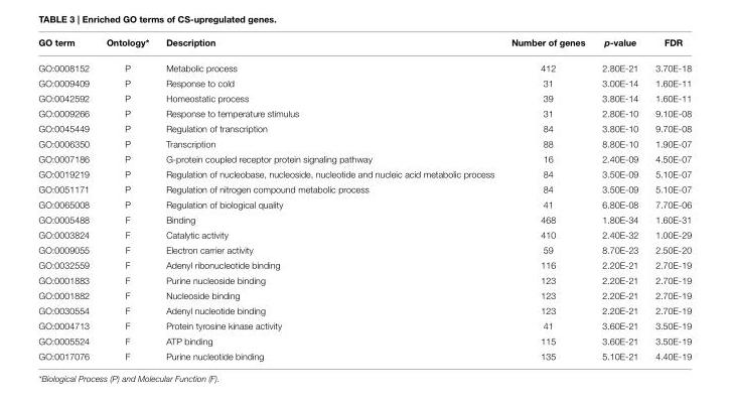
<table><thead><tr><td>GO term</td><td>Ontology*</td><td>Description</td><td>Number of genes</td><td>p-value</td><td>FDR</td></tr></thead><tbody><tr><td>GO:0008152</td><td>P</td><td>Metabolic process</td><td>412</td><td>2.80E-21</td><td>3.70E-18</td></tr><tr><td>GO:0009409</td><td>P</td><td>Response to cold</td><td>31</td><td>3.00E-14</td><td>1.60E-11</td></tr><tr><td>GO:0042592</td><td>P</td><td>Homeostatic process</td><td>39</td><td>3.80E-14</td><td>1.60E-11</td></tr><tr><td>GO:0009266</td><td>P</td><td>Response to temperature stimulus</td><td>31</td><td>2.80E-10</td><td>9.10E-08</td></tr><tr><td>GO:0045449</td><td>P</td><td>Regulation of transcription</td><td>84</td><td>3.80E-10</td><td>9.70E-08</td></tr><tr><td>GO:0006350</td><td>P</td><td>Transcription</td><td>88</td><td>8.80E-10</td><td>1.90E-07</td></tr><tr><td>GO:0007186</td><td>P</td><td>G-protein coupled receptor protein signaling pathway</td><td>16</td><td>2.40E-09</td><td>4.50E-07</td></tr><tr><td>GO:0019219</td><td>P</td><td>Regulation of nucleobase, nucleoside, nucleotide and nucleic acid metabolic process</td><td>84</td><td>3.50E-09</td><td>5.10E-07</td></tr><tr><td>GO:0051171</td><td>P</td><td>Regulation of nitrogen compound metabolic process</td><td>84</td><td>3.50E-09</td><td>5.10E-07</td></tr><tr><td>GO:0065008</td><td>P</td><td>Regulation of biological quality</td><td>41</td><td>6.80E-08</td><td>7.70E-06</td></tr><tr><td>GO:0005488</td><td>F</td><td>Binding</td><td>468</td><td>1.80E-34</td><td>1.60E-31</td></tr><tr><td>GO:0003824</td><td>F</td><td>Catalytic activity</td><td>410</td><td>2.40E-32</td><td>1.00E-29</td></tr><tr><td>GO:0009055</td><td>F</td><td>Electron carrier activity</td><td>59</td><td>8.70E-23</td><td>2.50E-20</td></tr><tr><td>GO:0032559</td><td>F</td><td>Adenyl ribonucleotide binding</td><td>116</td><td>2.20E-21</td><td>2.70E-19</td></tr><tr><td>GO:0001883</td><td>F</td><td>Purine nucleoside binding</td><td>123</td><td>2.20E-21</td><td>2.70E-19</td></tr><tr><td>GO:0001882</td><td>F</td><td>Nucleoside binding</td><td>123</td><td>2.20E-21</td><td>2.70E-19</td></tr><tr><td>GO:0030554</td><td>F</td><td>Adenyl nucleotide binding</td><td>123</td><td>2.20E-21</td><td>2.70E-19</td></tr><tr><td>GO:0004713</td><td>F</td><td>Protein tyrosine kinase activity</td><td>41</td><td>3.60E-21</td><td>3.50E-19</td></tr><tr><td>GO:0005524</td><td>F</td><td>ATP binding</td><td>115</td><td>3.60E-21</td><td>3.50E-19</td></tr><tr><td>GO:0017076</td><td>F</td><td>Purine nucleotide binding</td><td>135</td><td>5.10E-21</td><td>4.40E-19</td></tr></tbody></table>